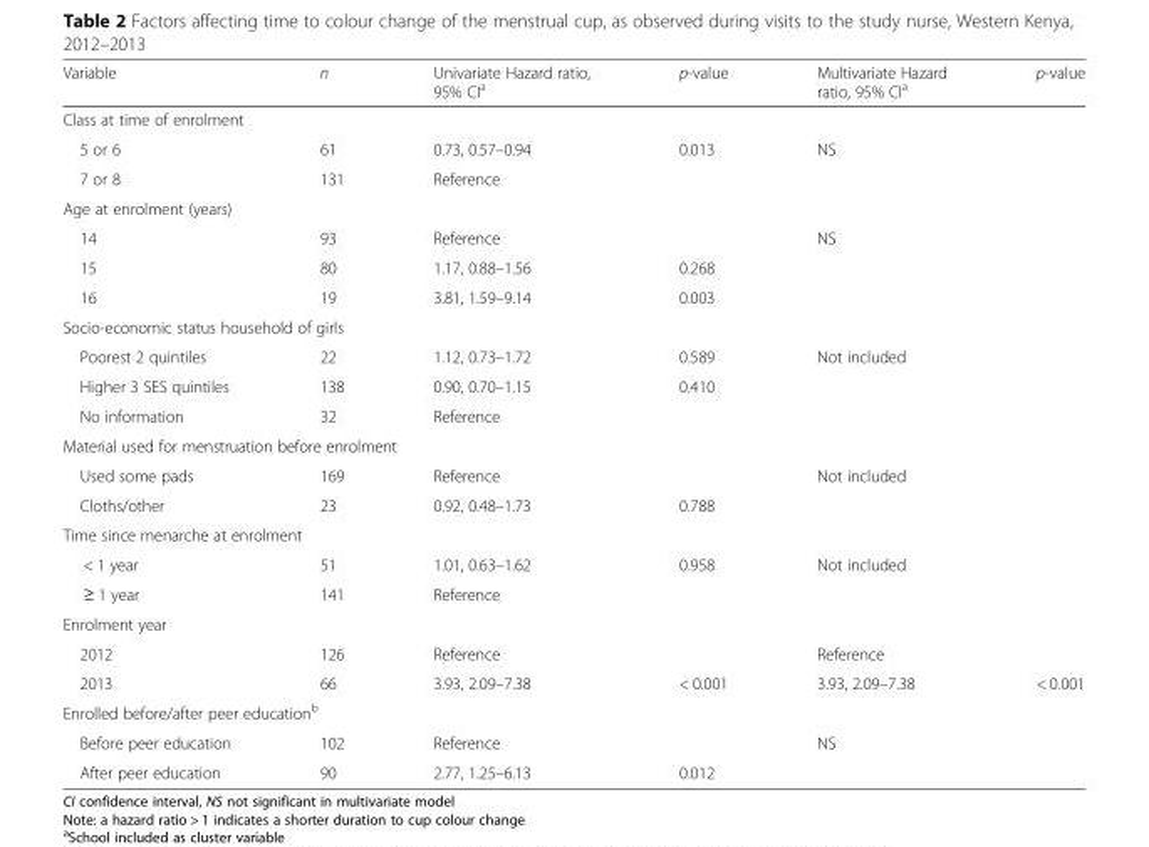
<table><thead><tr><td>Variable</td><td>n</td><td>Univariate Hazard ratio, 95% CI<sup>a</sup></td><td>p-value</td><td>Multivariate Hazard ratio, 95% CI<sup>a</sup></td><td>p-value</td></tr></thead><tbody><tr><td colspan="6">Class at time of enrolment</td></tr><tr><td>5 or 6</td><td>61</td><td>0.73, 0.57–0.94</td><td>0.013</td><td>NS</td><td></td></tr><tr><td>7 or 8</td><td>131</td><td>Reference</td><td></td><td></td><td></td></tr><tr><td colspan="6">Age at enrolment (years)</td></tr><tr><td>14</td><td>93</td><td>Reference</td><td></td><td>NS</td><td></td></tr><tr><td>15</td><td>80</td><td>1.17, 0.88–1.56</td><td>0.268</td><td></td><td></td></tr><tr><td>16</td><td>19</td><td>3.81, 1.59–9.14</td><td>0.003</td><td></td><td></td></tr><tr><td colspan="6">Socio-economic status household of girls</td></tr><tr><td>Poorest 2 quintiles</td><td>22</td><td>1.12, 0.73–1.72</td><td>0.589</td><td>Not included</td><td></td></tr><tr><td>Higher 3 SES quintiles</td><td>138</td><td>0.90, 0.70–1.15</td><td>0.410</td><td></td><td></td></tr><tr><td>No information</td><td>32</td><td>Reference</td><td></td><td></td><td></td></tr><tr><td colspan="6">Material used for menstruation before enrolment</td></tr><tr><td>Used some pads</td><td>169</td><td>Reference</td><td></td><td>Not included</td><td></td></tr><tr><td>Cloths/other</td><td>23</td><td>0.92, 0.48–1.73</td><td>0.788</td><td></td><td></td></tr><tr><td colspan="6">Time since menarche at enrolment</td></tr><tr><td>&lt; 1 year</td><td>51</td><td>1.01, 0.63–1.62</td><td>0.958</td><td>Not included</td><td></td></tr><tr><td>≥ 1 year</td><td>141</td><td>Reference</td><td></td><td></td><td></td></tr><tr><td colspan="6">Enrolment year</td></tr><tr><td>2012</td><td>126</td><td>Reference</td><td></td><td>Reference</td><td></td></tr><tr><td>2013</td><td>66</td><td>3.93, 2.09–7.38</td><td>&lt; 0.001</td><td>3.93, 2.09–7.38</td><td>&lt; 0.001</td></tr><tr><td colspan="6">Enrolled before/after peer education<sup>b</sup></td></tr><tr><td>Before peer education</td><td>102</td><td>Reference</td><td></td><td>NS</td><td></td></tr><tr><td>After peer education</td><td>90</td><td>2.77, 1.25–6.13</td><td>0.012</td><td></td><td></td></tr></tbody></table>